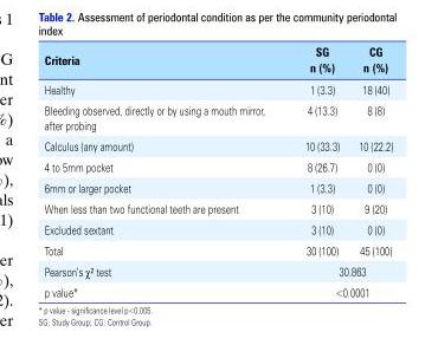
<table><thead><tr><td rowspan="2">Criteria</td><td rowspan="2">SG n (%)</td><td rowspan="2">CG n (%)</td></tr><tr></tr></thead><tbody><tr><td>Healthy</td><td>1 (3.3)</td><td>18 (40)</td></tr><tr><td>Bleeding observed, directly or by using a mouth mirror, after probing</td><td>4 (13.3)</td><td>8 (8)</td></tr><tr><td>Calculus (any amount)</td><td>10 (33.3)</td><td>10 (22.2)</td></tr><tr><td>4 to 5mm pocket</td><td>8 (26.7)</td><td>0 (0)</td></tr><tr><td>6mm or larger pocket</td><td>1 (3.3)</td><td>0 (0)</td></tr><tr><td>When less than two functional teeth are present</td><td>3 (10)</td><td>9 (20)</td></tr><tr><td>Excluded sextant</td><td>3 (10)</td><td>0 (0)</td></tr><tr><td>Total</td><td>30 (100)</td><td>45 (100)</td></tr><tr><td>Pearson’s χ² test</td><td colspan="2">30.863</td></tr><tr><td>p value*</td><td colspan="2">&lt;0.0001</td></tr></tbody></table>